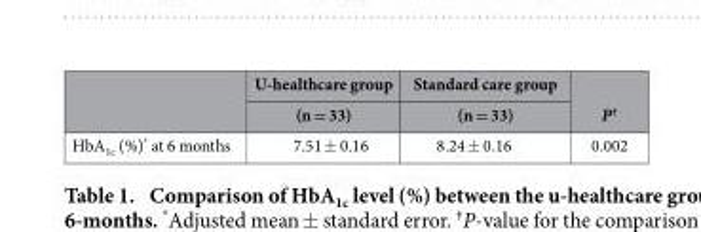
<table><thead><tr><td rowspan="2"></td><td rowspan="2">U-healthcare group (n = 33)</td><td rowspan="2">Standard care group (n = 33)</td><td rowspan="2">P†</td></tr><tr></tr></thead><tbody><tr><td>HbA<sub>1c</sub> (%)* at 6 months</td><td>7.51 ± 0.16</td><td>8.24 ± 0.16</td><td>0.002</td></tr></tbody></table>